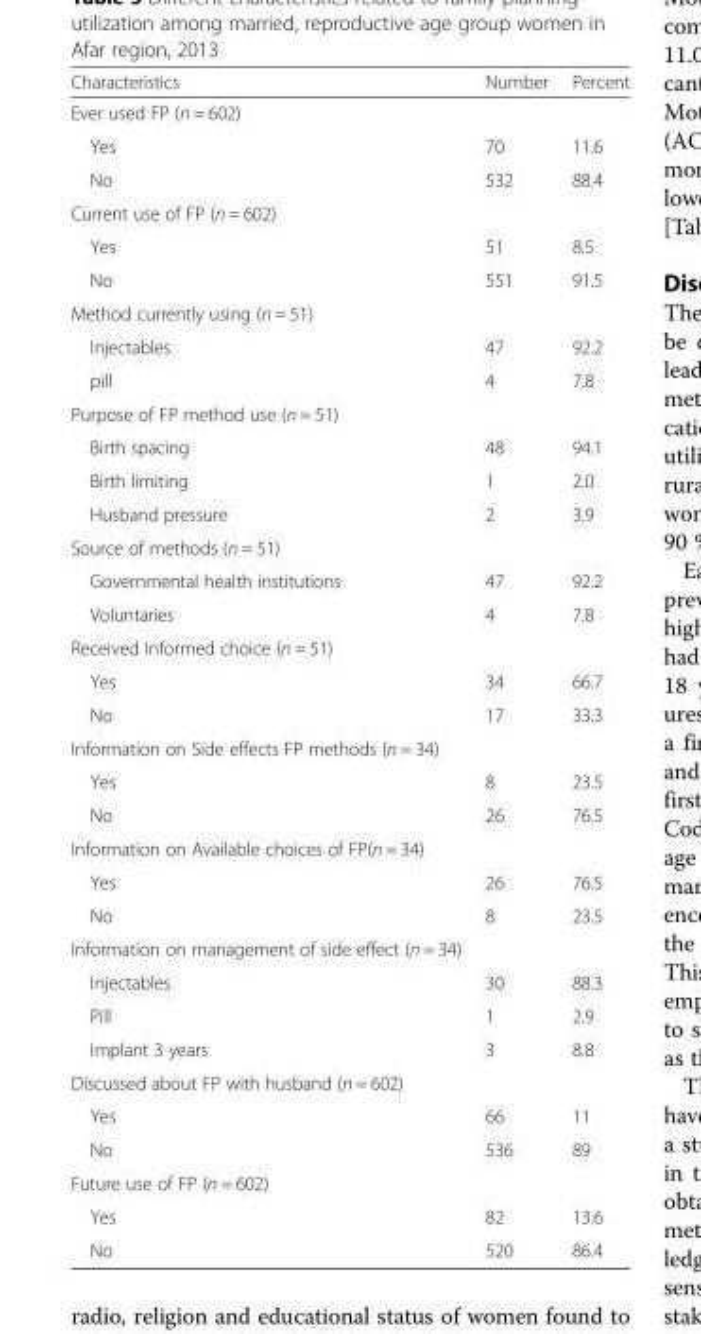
<table><thead><tr><td>Characteristics</td><td>Number</td><td>Percent</td></tr></thead><tbody><tr><td colspan="3">Ever used FP (n = 602)</td></tr><tr><td>Yes</td><td>70</td><td>11.6</td></tr><tr><td>No</td><td>532</td><td>88.4</td></tr><tr><td colspan="3">Current use of FP (n = 602)</td></tr><tr><td>Yes</td><td>51</td><td>8.5</td></tr><tr><td>No</td><td>551</td><td>91.5</td></tr><tr><td colspan="3">Method currently using (n = 51)</td></tr><tr><td>Injectables</td><td>47</td><td>92.2</td></tr><tr><td>pill</td><td>4</td><td>7.8</td></tr><tr><td colspan="3">Purpose of FP method use (n = 51)</td></tr><tr><td>Birth spacing</td><td>48</td><td>94.1</td></tr><tr><td>Birth limiting</td><td>1</td><td>2.0</td></tr><tr><td>Husband pressure</td><td>2</td><td>3.9</td></tr><tr><td colspan="3">Source of methods (n = 51)</td></tr><tr><td>Governmental health institutions</td><td>47</td><td>92.2</td></tr><tr><td>Voluntaries</td><td>4</td><td>7.8</td></tr><tr><td colspan="3">Received Informed choice (n = 51)</td></tr><tr><td>Yes</td><td>34</td><td>66.7</td></tr><tr><td>No</td><td>17</td><td>33.3</td></tr><tr><td colspan="3">Information on Side effects FP methods (n = 34)</td></tr><tr><td>Yes</td><td>8</td><td>23.5</td></tr><tr><td>No</td><td>26</td><td>76.5</td></tr><tr><td colspan="3">Information on Available choices of FP(n = 34)</td></tr><tr><td>Yes</td><td>26</td><td>76.5</td></tr><tr><td>No</td><td>8</td><td>23.5</td></tr><tr><td colspan="3">Information on management of side effect (n = 34)</td></tr><tr><td>Injectables</td><td>30</td><td>88.3</td></tr><tr><td>Pill</td><td>1</td><td>2.9</td></tr><tr><td>Implant 3 years</td><td>3</td><td>8.8</td></tr><tr><td colspan="3">Discussed about FP with husband (n = 602)</td></tr><tr><td>Yes</td><td>66</td><td>11</td></tr><tr><td>No</td><td>536</td><td>89</td></tr><tr><td colspan="3">Future use of FP (n = 602)</td></tr><tr><td>Yes</td><td>82</td><td>13.6</td></tr><tr><td>No</td><td>520</td><td>86.4</td></tr></tbody></table>